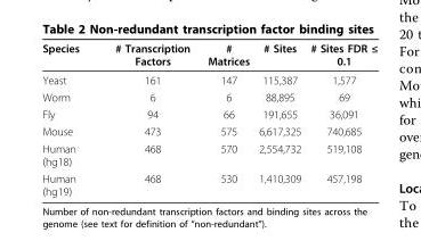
<table><thead><tr><td>Species</td><td># Transcription Factors</td><td># Matrices</td><td># Sites</td><td># Sites FDR ≤ 0.1</td></tr></thead><tbody><tr><td>Yeast</td><td>161</td><td>147</td><td>115,387</td><td>1,577</td></tr><tr><td>Worm</td><td>6</td><td>6</td><td>88,895</td><td>69</td></tr><tr><td>Fly</td><td>94</td><td>66</td><td>191,655</td><td>36,091</td></tr><tr><td>Mouse</td><td>473</td><td>575</td><td>6,617,325</td><td>740,685</td></tr><tr><td>Human (hg18)</td><td>468</td><td>570</td><td>2,554,732</td><td>519,108</td></tr><tr><td>Human (hg19)</td><td>468</td><td>530</td><td>1,410,309</td><td>457,198</td></tr></tbody></table>